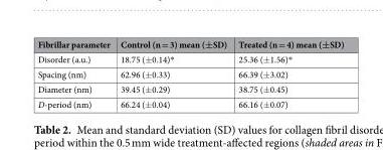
<table><thead><tr><td>Fibrillar parameter</td><td>Control (n = 3) mean (±SD)</td><td>Treated (n = 4) mean (±SD)</td></tr></thead><tbody><tr><td>Disorder (a.u.)</td><td>18.75 (±0.14)*</td><td>25.36 (±1.56)*</td></tr><tr><td>Spacing (nm)</td><td>62.96 (±0.33)</td><td>66.39 (±3.02)</td></tr><tr><td>Diameter (nm)</td><td>39.45 (±0.29)</td><td>38.75 (±0.45)</td></tr><tr><td>D-period (nm)</td><td>66.24 (±0.04)</td><td>66.16 (±0.07)</td></tr></tbody></table>